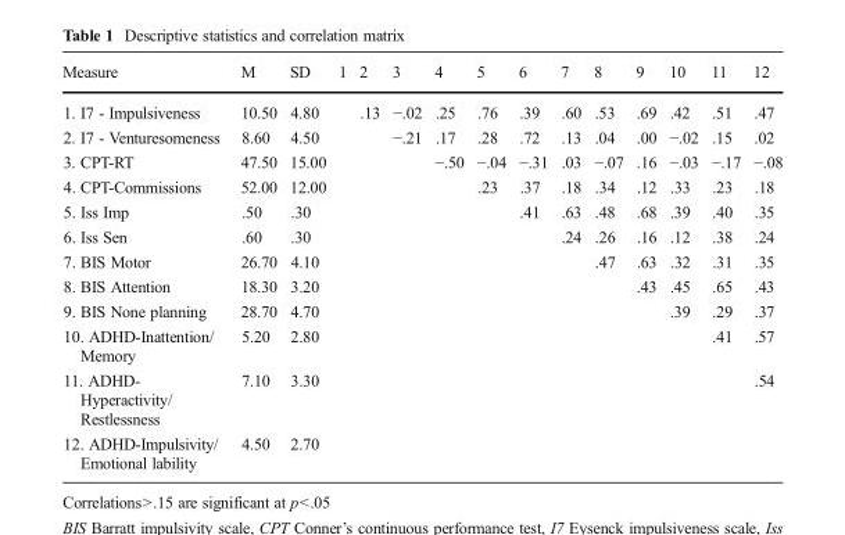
<table><thead><tr><td>Measure</td><td>M</td><td>SD</td><td>1</td><td>2</td><td>3</td><td>4</td><td>5</td><td>6</td><td>7</td><td>8</td><td>9</td><td>10</td><td>11</td><td>12</td></tr></thead><tbody><tr><td>1. I7 - Impulsiveness</td><td>10.50</td><td>4.80</td><td></td><td>.13</td><td>−.02</td><td>.25</td><td>.76</td><td>.39</td><td>.60</td><td>.53</td><td>.69</td><td>.42</td><td>.51</td><td>.47</td></tr><tr><td>2. I7 - Venturesomeness</td><td>8.60</td><td>4.50</td><td></td><td></td><td>−.21</td><td>.17</td><td>.28</td><td>.72</td><td>.13</td><td>.04</td><td>.00</td><td>−.02</td><td>.15</td><td>.02</td></tr><tr><td>3. CPT-RT</td><td>47.50</td><td>15.00</td><td></td><td></td><td></td><td>−.50</td><td>−.04</td><td>−.31</td><td>.03</td><td>−.07</td><td>.16</td><td>−.03</td><td>−.17</td><td>−.08</td></tr><tr><td>4. CPT-Commissions</td><td>52.00</td><td>12.00</td><td></td><td></td><td></td><td></td><td>.23</td><td>.37</td><td>.18</td><td>.34</td><td>.12</td><td>.33</td><td>.23</td><td>.18</td></tr><tr><td>5. Iss Imp</td><td>.50</td><td>.30</td><td></td><td></td><td></td><td></td><td></td><td>.41</td><td>.63</td><td>.48</td><td>.68</td><td>.39</td><td>.40</td><td>.35</td></tr><tr><td>6. Iss Sen</td><td>.60</td><td>.30</td><td></td><td></td><td></td><td></td><td></td><td></td><td>.24</td><td>.26</td><td>.16</td><td>.12</td><td>.38</td><td>.24</td></tr><tr><td>7. BIS Motor</td><td>26.70</td><td>4.10</td><td></td><td></td><td></td><td></td><td></td><td></td><td></td><td>.47</td><td>.63</td><td>.32</td><td>.31</td><td>.35</td></tr><tr><td>8. BIS Attention</td><td>18.30</td><td>3.20</td><td></td><td></td><td></td><td></td><td></td><td></td><td></td><td></td><td>.43</td><td>.45</td><td>.65</td><td>.43</td></tr><tr><td>9. BIS None planning</td><td>28.70</td><td>4.70</td><td></td><td></td><td></td><td></td><td></td><td></td><td></td><td></td><td></td><td>.39</td><td>.29</td><td>.37</td></tr><tr><td>10. ADHD-Inattention/ Memory</td><td>5.20</td><td>2.80</td><td></td><td></td><td></td><td></td><td></td><td></td><td></td><td></td><td></td><td></td><td>.41</td><td>.57</td></tr><tr><td>11. ADHD- Hyperactivity/ Restlessness</td><td>7.10</td><td>3.30</td><td></td><td></td><td></td><td></td><td></td><td></td><td></td><td></td><td></td><td></td><td></td><td>.54</td></tr><tr><td>12. ADHD-Impulsivity/ Emotional lability</td><td>4.50</td><td>2.70</td><td></td><td></td><td></td><td></td><td></td><td></td><td></td><td></td><td></td><td></td><td></td><td></td></tr></tbody></table>